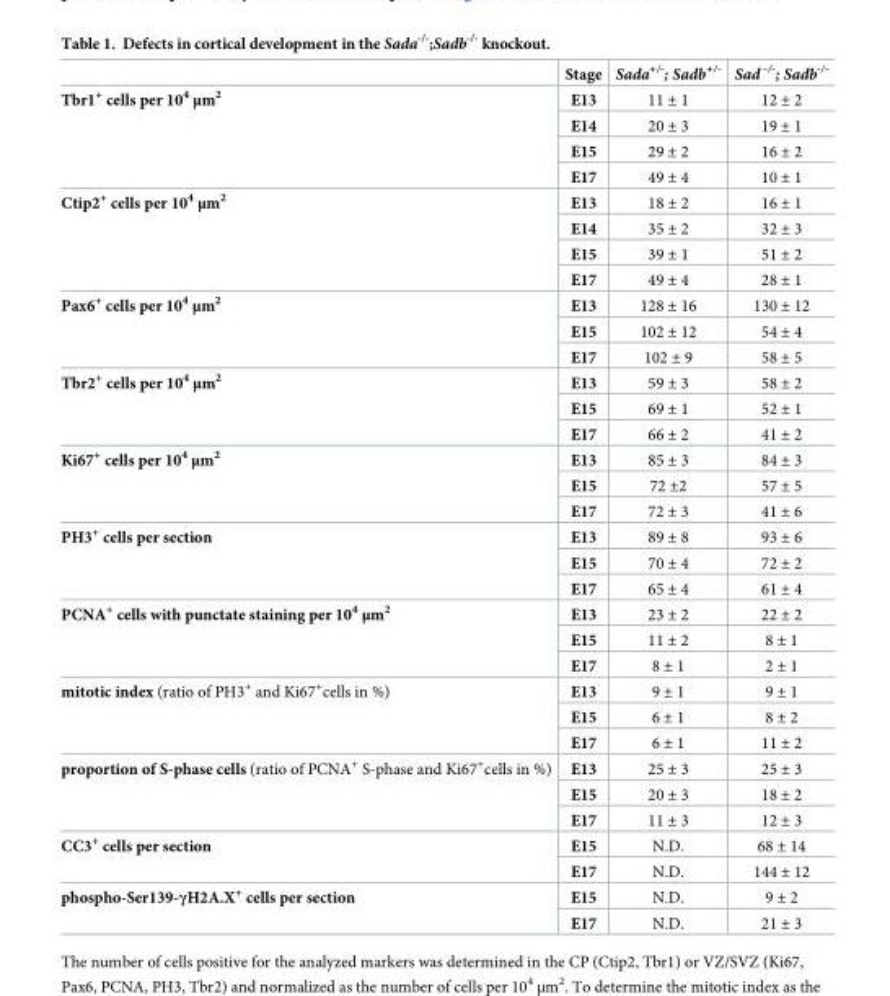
<table><thead><tr><td></td><td>Stage</td><td>Sada<sup>+/-</sup>; Sadb<sup>+/-</sup></td><td>Sad <sup>-/-</sup>; Sadb<sup>-/-</sup></td></tr></thead><tbody><tr><td rowspan="4">Tbr1<sup>+</sup> cells per 10<sup>4</sup> μm<sup>2</sup></td><td>E13</td><td>11 ± 1</td><td>12 ± 2</td></tr><tr><td>E14</td><td>20 ± 3</td><td>19 ± 1</td></tr><tr><td>E15</td><td>29 ± 2</td><td>16 ± 2</td></tr><tr><td>E17</td><td>49 ± 4</td><td>10 ± 1</td></tr><tr><td rowspan="4">Ctip2<sup>+</sup> cells per 10<sup>4</sup> μm<sup>2</sup></td><td>E13</td><td>18 ± 2</td><td>16 ± 1</td></tr><tr><td>E14</td><td>35 ± 2</td><td>32 ± 3</td></tr><tr><td>E15</td><td>39 ± 1</td><td>51 ± 2</td></tr><tr><td>E17</td><td>49 ± 4</td><td>28 ± 1</td></tr><tr><td rowspan="3">Pax6<sup>+</sup> cells per 10<sup>4</sup> μm<sup>2</sup></td><td>E13</td><td>128 ± 16</td><td>130 ± 12</td></tr><tr><td>E15</td><td>102 ± 12</td><td>54 ± 4</td></tr><tr><td>E17</td><td>102 ± 9</td><td>58 ± 5</td></tr><tr><td rowspan="3">Tbr2<sup>+</sup> cells per 10<sup>4</sup> μm<sup>2</sup></td><td>E13</td><td>59 ± 3</td><td>58 ± 2</td></tr><tr><td>E15</td><td>69 ± 1</td><td>52 ± 1</td></tr><tr><td>E17</td><td>66 ± 2</td><td>41 ± 2</td></tr><tr><td rowspan="3">Ki67<sup>+</sup> cells per 10<sup>4</sup> μm<sup>2</sup></td><td>E13</td><td>85 ± 3</td><td>84 ± 3</td></tr><tr><td>E15</td><td>72 ±2</td><td>57 ± 5</td></tr><tr><td>E17</td><td>72 ± 3</td><td>41 ± 6</td></tr><tr><td rowspan="3">PH3<sup>+</sup> cells per section</td><td>E13</td><td>89 ± 8</td><td>93 ± 6</td></tr><tr><td>E15</td><td>70 ± 4</td><td>72 ± 2</td></tr><tr><td>E17</td><td>65 ± 4</td><td>61 ± 4</td></tr><tr><td rowspan="3">PCNA<sup>+</sup> cells with punctate staining per 10<sup>4</sup> μm<sup>2</sup></td><td>E13</td><td>23 ± 2</td><td>22 ± 2</td></tr><tr><td>E15</td><td>11 ± 2</td><td>8 ± 1</td></tr><tr><td>E17</td><td>8 ± 1</td><td>2 ± 1</td></tr><tr><td rowspan="3">mitotic index (ratio of PH3<sup>+</sup> and Ki67<sup>+</sup>cells in %)</td><td>E13</td><td>9 ± 1</td><td>9 ± 1</td></tr><tr><td>E15</td><td>6 ± 1</td><td>8 ± 2</td></tr><tr><td>E17</td><td>6 ± 1</td><td>11 ± 2</td></tr><tr><td rowspan="3">proportion of S-phase cells (ratio of PCNA<sup>+</sup> S-phase and Ki67<sup>+</sup>cells in %)</td><td>E13</td><td>25 ± 3</td><td>25 ± 3</td></tr><tr><td>E15</td><td>20 ± 3</td><td>18 ± 2</td></tr><tr><td>E17</td><td>11 ± 3</td><td>12 ± 3</td></tr><tr><td rowspan="2">CC3<sup>+</sup> cells per section</td><td>E15</td><td>N.D.</td><td>68 ± 14</td></tr><tr><td>E17</td><td>N.D.</td><td>144 ± 12</td></tr><tr><td rowspan="2">phospho-Ser139-γH2A.X<sup>+</sup> cells per section</td><td>E15</td><td>N.D.</td><td>9 ± 2</td></tr><tr><td>E17</td><td>N.D.</td><td>21 ± 3</td></tr></tbody></table>